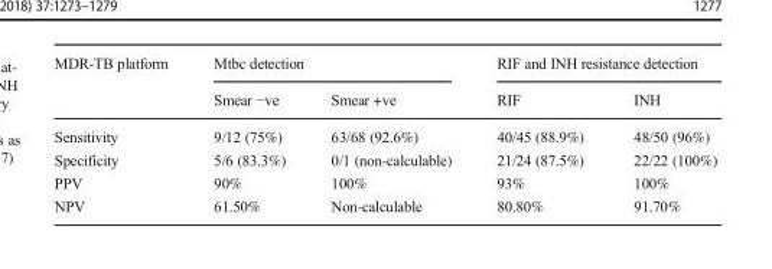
<table><thead><tr><td rowspan="2">MDR-TB platform</td><td colspan="2">Mtbc detection</td><td colspan="2">RIF and INH resistance detection</td></tr><tr><td>Smear −ve</td><td>Smear +ve</td><td>RIF</td><td>INH</td></tr></thead><tbody><tr><td>Sensitivity</td><td>9/12 (75%)</td><td>63/68 (92.6%)</td><td>40/45 (88.9%)</td><td>48/50 (96%)</td></tr><tr><td>Specificity</td><td>5/6 (83.3%)</td><td>0/1 (non-calculable)</td><td>21/24 (87.5%)</td><td>22/22 (100%)</td></tr><tr><td>PPV</td><td>90%</td><td>100%</td><td>93%</td><td>100%</td></tr><tr><td>NPV</td><td>61.50%</td><td>Non-calculable</td><td>80.80%</td><td>91.70%</td></tr></tbody></table>